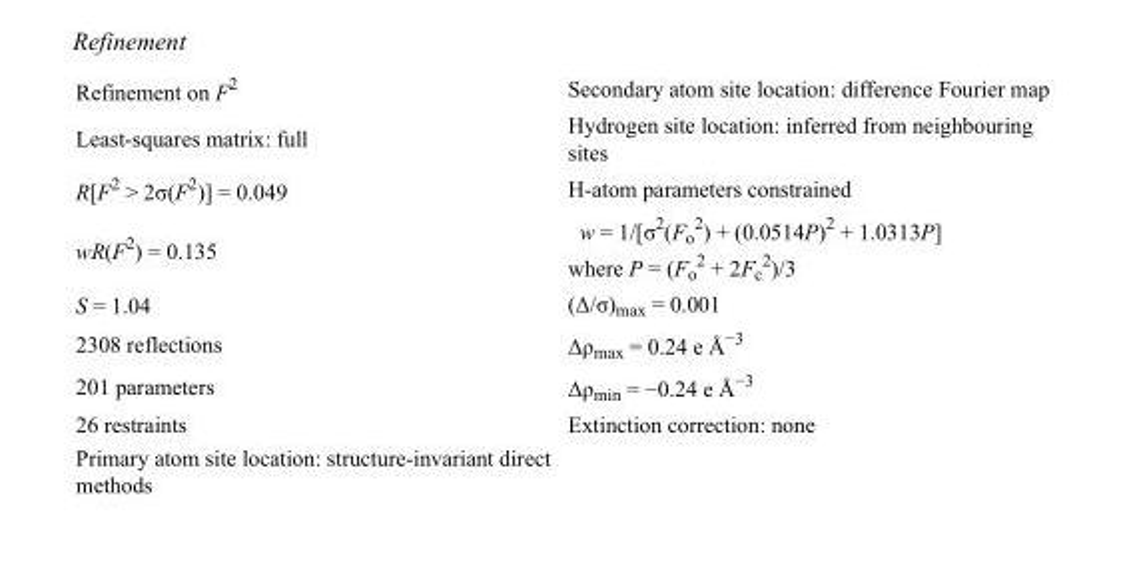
<table><tbody><tr><td>Refinement on F<sup>2</sup></td><td>Secondary atom site location: difference Fourier map</td></tr><tr><td>Least-squares matrix: full</td><td>Hydrogen site location: inferred from neighbouring sites</td></tr><tr><td>R[F<sup>2</sup> &gt; 2σ(F<sup>2</sup>)] = 0.049</td><td>H-atom parameters constrained</td></tr><tr><td>wR(F<sup>2</sup>) = 0.135</td><td>w = 1/[σ<sup>2</sup>(F<sub>o</sub> <sup>2</sup>) + (0.0514P)<sup>2</sup> + 1.0313P] where P = (F<sub>o</sub> <sup>2</sup> + 2F<sub>c</sub> <sup>2</sup>)/3</td></tr><tr><td>S = 1.04</td><td>(Δ/σ)<sub>max</sub> = 0.001</td></tr><tr><td>2308 reflections</td><td>Δρ<sub>max</sub> = 0.24 e Å<sup>−3</sup></td></tr><tr><td>201 parameters</td><td>Δρ<sub>min</sub> = −0.24 e Å<sup>−3</sup></td></tr><tr><td>26 restraints</td><td>Extinction correction: none</td></tr><tr><td>Primary atom site location: structure-invariant direct methods</td><td></td></tr></tbody></table>